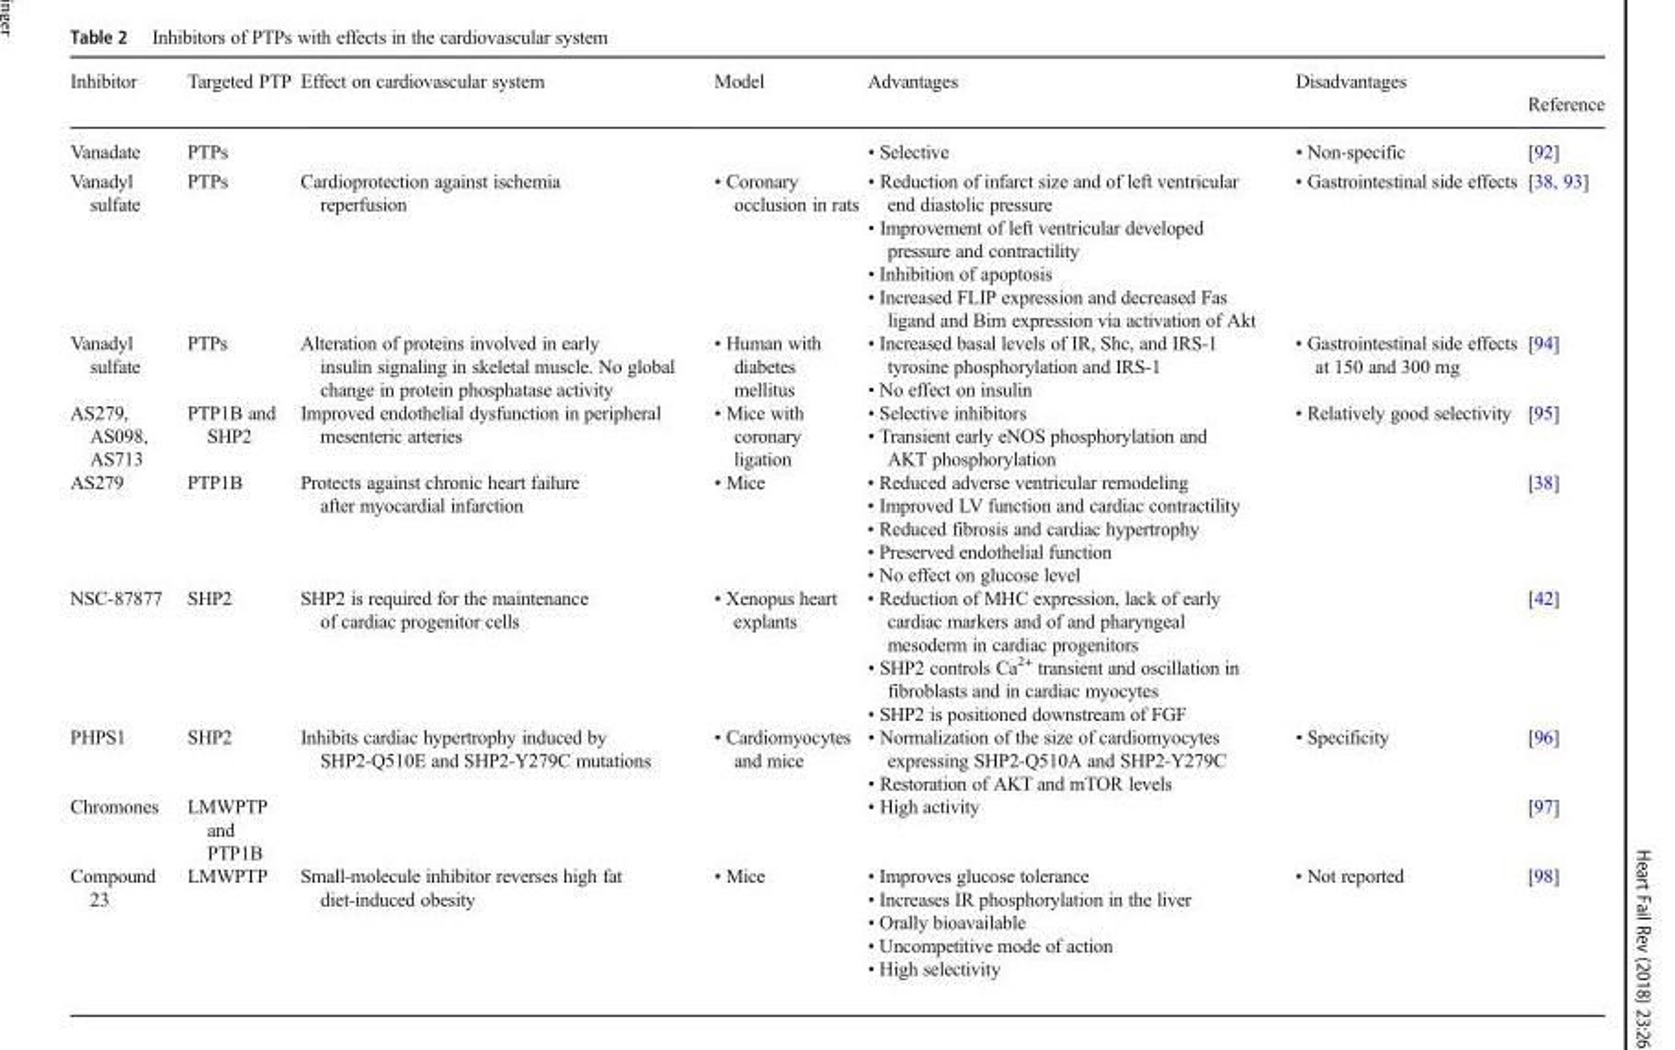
<table><thead><tr><td>Inhibitor</td><td>Targeted PTP</td><td>Effect on cardiovascular system</td><td>Model</td><td>Advantages</td><td>Disadvantages</td><td>Reference</td></tr></thead><tbody><tr><td>Vanadate</td><td>PTPs</td><td></td><td></td><td>• Selective</td><td>• Non-specific</td><td>[92]</td></tr><tr><td>Vanadyl sulfate</td><td>PTPs</td><td>Cardioprotection against ischemia reperfusion</td><td>• Coronary occlusion in rats</td><td>• Reduction of infarct size and of left ventricular end diastolic pressure • Improvement of left ventricular developed pressure and contractility • Inhibition of apoptosis • Increased FLIP expression and decreased Fas ligand and Bim expression via activation of Akt</td><td>• Gastrointestinal side effects</td><td>[38, 93]</td></tr><tr><td>Vanadyl sulfate</td><td>PTPs</td><td>Alteration of proteins involved in early insulin signaling in skeletal muscle. No global change in protein phosphatase activity</td><td>• Human with diabetes mellitus</td><td>• Increased basal levels of IR, Shc, and IRS-1 tyrosine phosphorylation and IRS-1 • No effect on insulin</td><td>• Gastrointestinal side effects at 150 and 300 mg</td><td>[94]</td></tr><tr><td>AS279, AS098, AS713</td><td>PTP1B and SHP2</td><td>Improved endothelial dysfunction in peripheral mesenteric arteries</td><td>• Mice with coronary ligation</td><td>• Selective inhibitors • Transient early eNOS phosphorylation and AKT phosphorylation</td><td>• Relatively good selectivity</td><td>[95]</td></tr><tr><td>AS279</td><td>PTP1B</td><td>Protects against chronic heart failure after myocardial infarction</td><td>• Mice</td><td>• Reduced adverse ventricular remodeling • Improved LV function and cardiac contractility • Reduced fibrosis and cardiac hypertrophy • Preserved endothelial function • No effect on glucose level</td><td></td><td>[38]</td></tr><tr><td>NSC-87877</td><td>SHP2</td><td>SHP2 is required for the maintenance of cardiac progenitor cells</td><td>• Xenopus heart explants</td><td>• Reduction of MHC expression, lack of early cardiac markers and of and pharyngeal mesoderm in cardiac progenitors • SHP2 controls Ca<sup>2+</sup> transient and oscillation in fibroblasts and in cardiac myocytes • SHP2 is positioned downstream of FGF</td><td></td><td>[42]</td></tr><tr><td>PHPS1</td><td>SHP2</td><td>Inhibits cardiac hypertrophy induced by SHP2-Q510E and SHP2-Y279C mutations</td><td>• Cardiomyocytes and mice</td><td>• Normalization of the size of cardiomyocytes expressing SHP2-Q510A and SHP2-Y279C • Restoration of AKT and mTOR levels</td><td>• Specificity</td><td>[96]</td></tr><tr><td>Chromones</td><td>LMWPTP and PTP1B</td><td></td><td></td><td>• High activity</td><td></td><td>[97]</td></tr><tr><td>Compound 23</td><td>LMWPTP</td><td>Small-molecule inhibitor reverses high fat diet-induced obesity</td><td>• Mice</td><td>• Improves glucose tolerance • Increases IR phosphorylation in the liver • Orally bioavailable • Uncompetitive mode of action • High selectivity</td><td>• Not reported</td><td>[98]</td></tr></tbody></table>